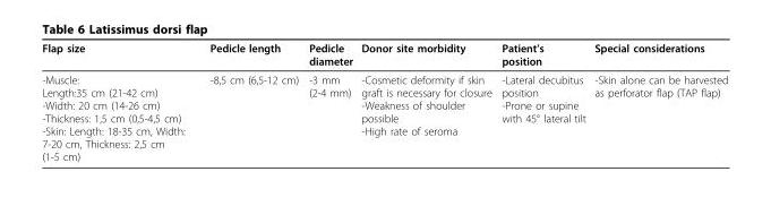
<table><thead><tr><td>Flap size</td><td>Pedicle length</td><td>Pedicle diameter</td><td>Donor site morbidity</td><td>Patient’s position</td><td>Special considerations</td></tr></thead><tbody><tr><td>-Muscle: Length:35 cm (21-42 cm) -Width: 20 cm (14-26 cm) -Thickness: 1,5 cm (0,5-4,5 cm) -Skin: Length: 18-35 cm, Width: 7-20 cm, Thickness: 2,5 cm (1-5 cm)</td><td>-8,5 cm (6,5-12 cm)</td><td>-3 mm (2-4 mm)</td><td>-Cosmetic deformity if skin graft is necessary for closure -Weakness of shoulder possible -High rate of seroma</td><td>-Lateral decubitus position -Prone or supine with 45° lateral tilt</td><td>-Skin alone can be harvested as perforator flap (TAP flap)</td></tr></tbody></table>